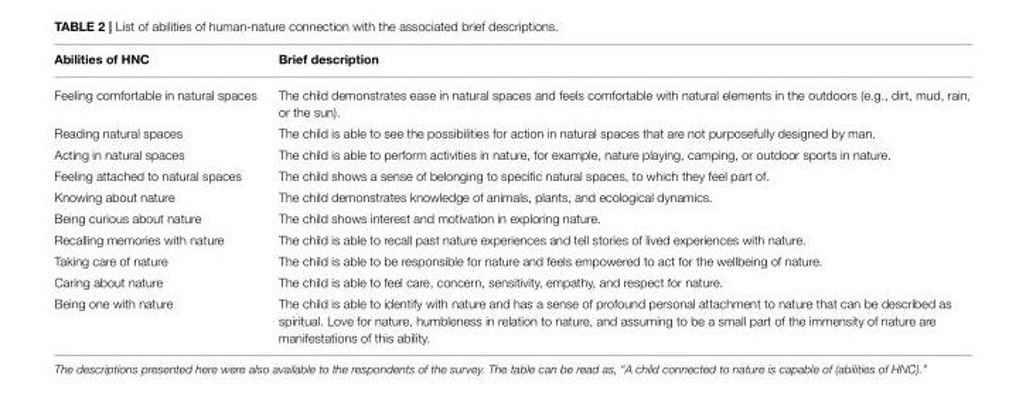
<table><thead><tr><td>Abilities of HNC</td><td>Brief description</td></tr></thead><tbody><tr><td>Feeling comfortable in natural spaces</td><td>The child demonstrates ease in natural spaces and feels comfortable with natural elements in the outdoors (e.g., dirt, mud, rain, or the sun).</td></tr><tr><td>Reading natural spaces</td><td>The child is able to see the possibilities for action in natural spaces that are not purposefully designed by man.</td></tr><tr><td>Acting in natural spaces</td><td>The child is able to perform activities in nature, for example, nature playing, camping, or outdoor sports in nature.</td></tr><tr><td>Feeling attached to natural spaces</td><td>The child shows a sense of belonging to specific natural spaces, to which they feel part of.</td></tr><tr><td>Knowing about nature</td><td>The child demonstrates knowledge of animals, plants, and ecological dynamics.</td></tr><tr><td>Being curious about nature</td><td>The child shows interest and motivation in exploring nature.</td></tr><tr><td>Recalling memories with nature</td><td>The child is able to recall past nature experiences and tell stories of lived experiences with nature.</td></tr><tr><td>Taking care of nature</td><td>The child is able to be responsible for nature and feels empowered to act for the wellbeing of nature.</td></tr><tr><td>Caring about nature</td><td>The child is able to feel care, concern, sensitivity, empathy, and respect for nature.</td></tr><tr><td>Being one with nature</td><td>The child is able to identify with nature and has a sense of profound personal attachment to nature that can be described as spiritual. Love for nature, humbleness in relation to nature, and assuming to be a small part of the immensity of nature are manifestations of this ability.</td></tr></tbody></table>